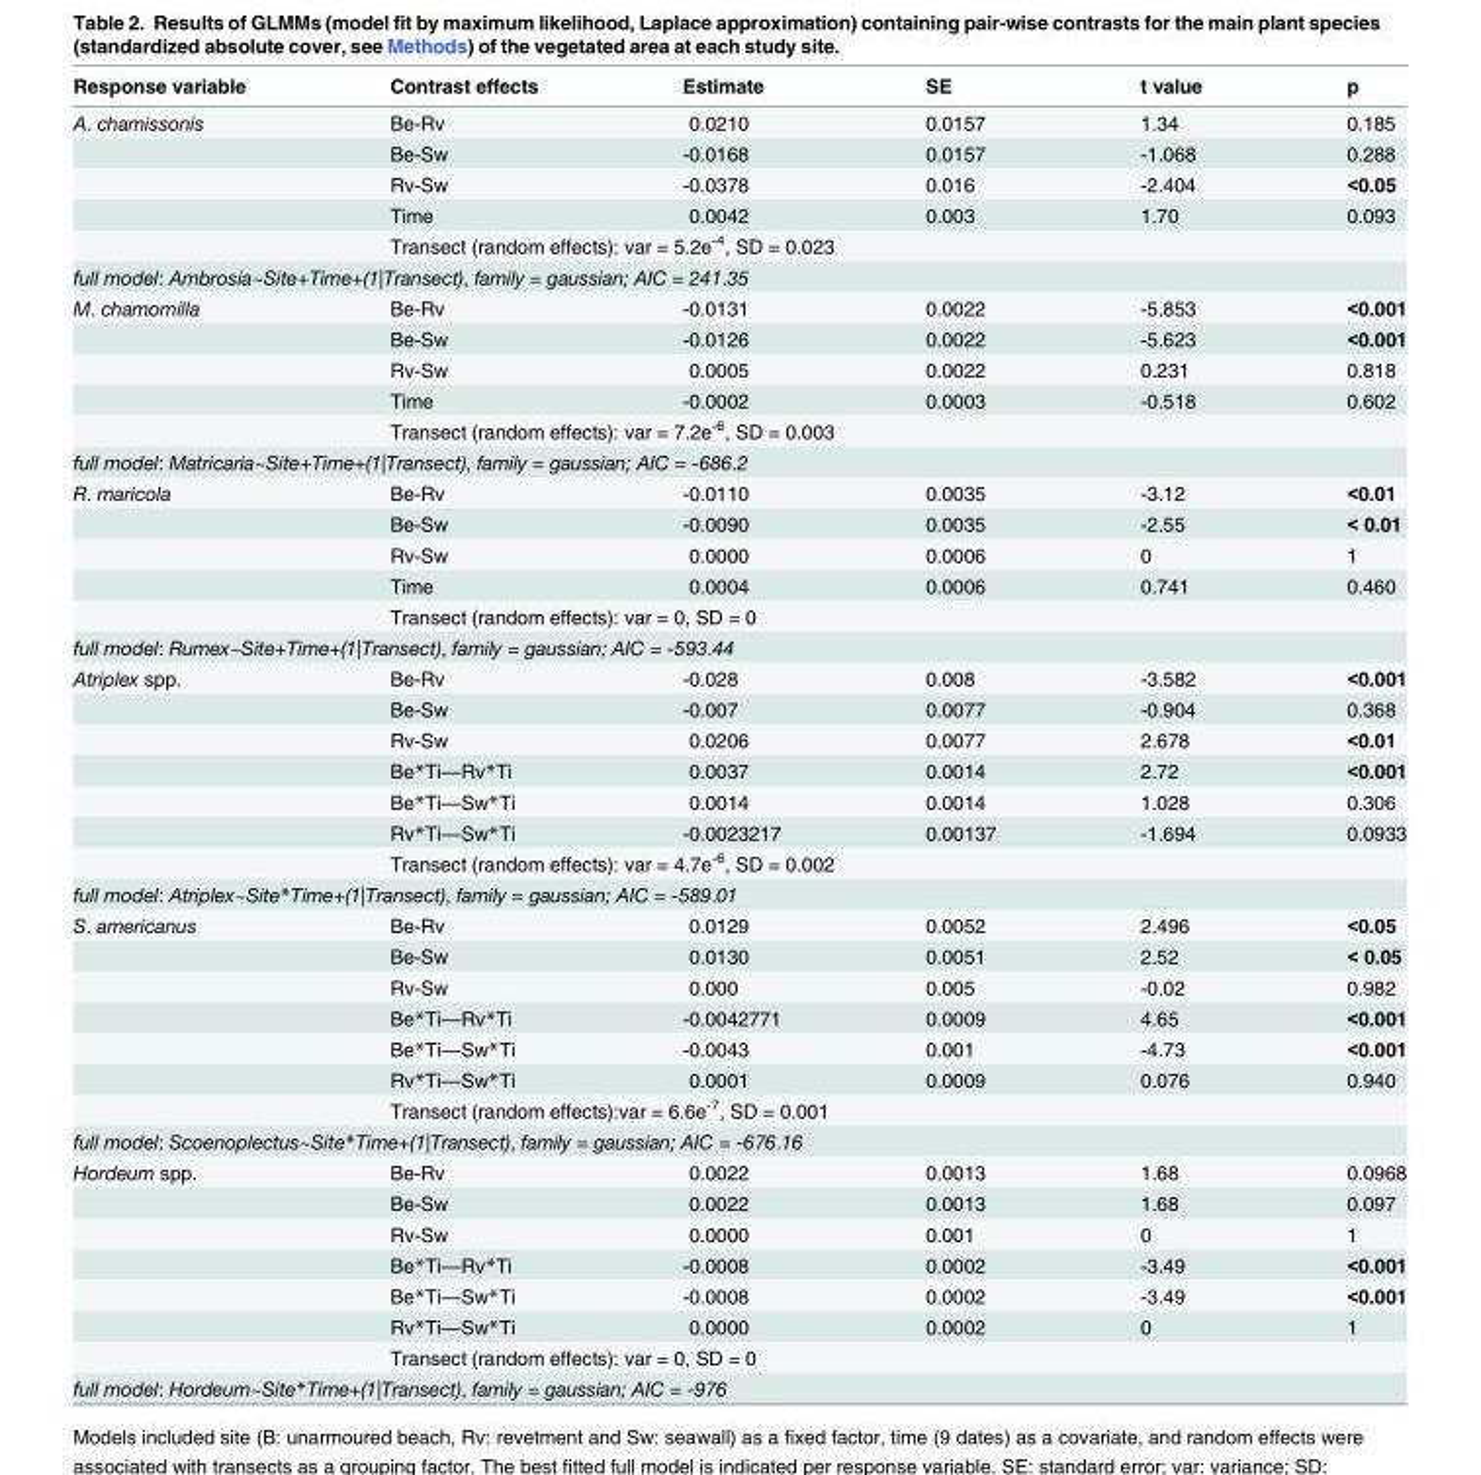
<table><thead><tr><td>Response variable</td><td>Contrast effects</td><td>Estimate</td><td>SE</td><td>t value</td><td>p</td></tr></thead><tbody><tr><td rowspan="5">A. chamissonis</td><td>Be-Rv</td><td>0.0210</td><td>0.0157</td><td>1.34</td><td>0.185</td></tr><tr><td>Be-Sw</td><td>-0.0168</td><td>0.0157</td><td>-1.068</td><td>0.288</td></tr><tr><td>Rv-Sw</td><td>-0.0378</td><td>0.016</td><td>-2.404</td><td>&lt;0.05</td></tr><tr><td>Time</td><td>0.0042</td><td>0.003</td><td>1.70</td><td>0.093</td></tr><tr><td colspan="4">Transect (random effects): var = 5.2e<sup>-4</sup>, SD = 0.023</td><td></td></tr><tr><td colspan="6">full model: Ambrosia~Site+Time+(1|Transect), family = gaussian; AIC = 241.35</td></tr><tr><td rowspan="5">M. chamomilla</td><td>Be-Rv</td><td>-0.0131</td><td>0.0022</td><td>-5.853</td><td>&lt;0.001</td></tr><tr><td>Be-Sw</td><td>-0.0126</td><td>0.0022</td><td>-5.623</td><td>&lt;0.001</td></tr><tr><td>Rv-Sw</td><td>0.0005</td><td>0.0022</td><td>0.231</td><td>0.818</td></tr><tr><td>Time</td><td>-0.0002</td><td>0.0003</td><td>-0.518</td><td>0.602</td></tr><tr><td colspan="4">Transect (random effects): var = 7.2e<sup>-6</sup>, SD = 0.003</td><td></td></tr><tr><td colspan="6">full model: Matricaria~Site+Time+(1|Transect), family = gaussian; AIC = -686.2</td></tr><tr><td rowspan="5">R. maricola</td><td>Be-Rv</td><td>-0.0110</td><td>0.0035</td><td>-3.12</td><td>&lt;0.01</td></tr><tr><td>Be-Sw</td><td>-0.0090</td><td>0.0035</td><td>-2.55</td><td>&lt; 0.01</td></tr><tr><td>Rv-Sw</td><td>0.0000</td><td>0.0006</td><td>0</td><td>1</td></tr><tr><td>Time</td><td>0.0004</td><td>0.0006</td><td>0.741</td><td>0.460</td></tr><tr><td colspan="4">Transect (random effects): var = 0, SD = 0</td><td></td></tr><tr><td colspan="6">full model: Rumex~Site+Time+(1|Transect), family = gaussian; AIC = -593.44</td></tr><tr><td rowspan="7">Atriplex spp.</td><td>Be-Rv</td><td>-0.028</td><td>0.008</td><td>-3.582</td><td>&lt;0.001</td></tr><tr><td>Be-Sw</td><td>-0.007</td><td>0.0077</td><td>-0.904</td><td>0.368</td></tr><tr><td>Rv-Sw</td><td>0.0206</td><td>0.0077</td><td>2.678</td><td>&lt;0.01</td></tr><tr><td>Be*Ti—Rv*Ti</td><td>0.0037</td><td>0.0014</td><td>2.72</td><td>&lt;0.001</td></tr><tr><td>Be*Ti—Sw*Ti</td><td>0.0014</td><td>0.0014</td><td>1.028</td><td>0.306</td></tr><tr><td>Rv*Ti—Sw*Ti</td><td>-0.0023217</td><td>0.00137</td><td>-1.694</td><td>0.0933</td></tr><tr><td colspan="4">Transect (random effects): var = 4.7e<sup>-6</sup>, SD = 0.002</td><td></td></tr><tr><td colspan="6">full model: Atriplex~Site*Time+(1|Transect), family = gaussian; AIC = -589.01</td></tr><tr><td rowspan="7">S. americanus</td><td>Be-Rv</td><td>0.0129</td><td>0.0052</td><td>2.496</td><td>&lt;0.05</td></tr><tr><td>Be-Sw</td><td>0.0130</td><td>0.0051</td><td>2.52</td><td>&lt; 0.05</td></tr><tr><td>Rv-Sw</td><td>0.000</td><td>0.005</td><td>-0.02</td><td>0.982</td></tr><tr><td>Be*Ti—Rv*Ti</td><td>-0.0042771</td><td>0.0009</td><td>4.65</td><td>&lt;0.001</td></tr><tr><td>Be*Ti—Sw*Ti</td><td>-0.0043</td><td>0.001</td><td>-4.73</td><td>&lt;0.001</td></tr><tr><td>Rv*Ti—Sw*Ti</td><td>0.0001</td><td>0.0009</td><td>0.076</td><td>0.940</td></tr><tr><td colspan="4">Transect (random effects):var = 6.6e<sup>-7</sup>, SD = 0.001</td><td></td></tr><tr><td colspan="6">full model: Scoenoplectus~Site*Time+(1|Transect), family = gaussian; AIC = -676.16</td></tr><tr><td rowspan="7">Hordeum spp.</td><td>Be-Rv</td><td>0.0022</td><td>0.0013</td><td>1.68</td><td>0.0968</td></tr><tr><td>Be-Sw</td><td>0.0022</td><td>0.0013</td><td>1.68</td><td>0.097</td></tr><tr><td>Rv-Sw</td><td>0.0000</td><td>0.001</td><td>0</td><td>1</td></tr><tr><td>Be*Ti—Rv*Ti</td><td>-0.0008</td><td>0.0002</td><td>-3.49</td><td>&lt;0.001</td></tr><tr><td>Be*Ti—Sw*Ti</td><td>-0.0008</td><td>0.0002</td><td>-3.49</td><td>&lt;0.001</td></tr><tr><td>Rv*Ti—Sw*Ti</td><td>0.0000</td><td>0.0002</td><td>0</td><td>1</td></tr><tr><td colspan="4">Transect (random effects): var = 0, SD = 0</td><td></td></tr><tr><td colspan="6">full model: Hordeum~Site*Time+(1|Transect), family = gaussian; AIC = -976</td></tr></tbody></table>